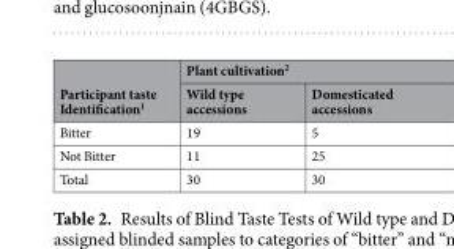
<table><thead><tr><td rowspan="2">Participant taste Identification<sup>1</sup></td><td colspan="2">Plant cultivation<sup>2</sup></td></tr><tr><td>Wild type accessions</td><td>Domesticated accessions</td></tr></thead><tbody><tr><td>Bitter</td><td>19</td><td>5</td></tr><tr><td>Not Bitter</td><td>11</td><td>25</td></tr><tr><td>Total</td><td>30</td><td>30</td></tr></tbody></table>